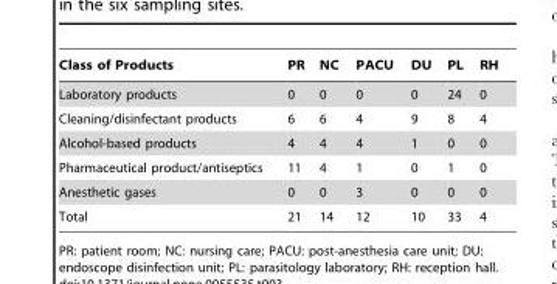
<table><thead><tr><td>Class of Products</td><td>PR</td><td>NC</td><td>PACU</td><td>DU</td><td>PL</td><td>RH</td></tr></thead><tbody><tr><td>Laboratory products</td><td>0</td><td>0</td><td>0</td><td>0</td><td>24</td><td>0</td></tr><tr><td>Cleaning/disinfectant products</td><td>6</td><td>6</td><td>4</td><td>9</td><td>8</td><td>4</td></tr><tr><td>Alcohol-based products</td><td>4</td><td>4</td><td>4</td><td>1</td><td>0</td><td>0</td></tr><tr><td>Pharmaceutical product/antiseptics</td><td>11</td><td>4</td><td>1</td><td>0</td><td>1</td><td>0</td></tr><tr><td>Anesthetic gases</td><td>0</td><td>0</td><td>3</td><td>0</td><td>0</td><td>0</td></tr><tr><td>Total</td><td>21</td><td>14</td><td>12</td><td>10</td><td>33</td><td>4</td></tr></tbody></table>